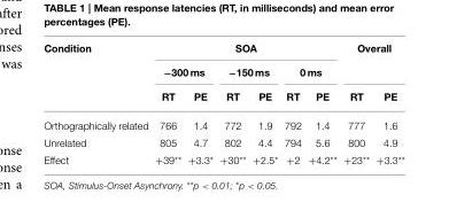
<table><thead><tr><td rowspan="3">Condition</td><td colspan="6">SOA</td><td colspan="2">Overall</td></tr><tr><td colspan="2">−300 ms</td><td colspan="2">−150 ms</td><td colspan="2">0 ms</td><td rowspan="2">RT</td><td rowspan="2">PE</td></tr><tr><td>RT</td><td>PE</td><td>RT</td><td>PE</td><td>RT</td><td>PE</td></tr></thead><tbody><tr><td>Orthographically related</td><td>766</td><td>1.4</td><td>772</td><td>1.9</td><td>792</td><td>1.4</td><td>777</td><td>1.6</td></tr><tr><td>Unrelated</td><td>805</td><td>4.7</td><td>802</td><td>4.4</td><td>794</td><td>5.6</td><td>800</td><td>4.9</td></tr><tr><td>Effect</td><td>+39**</td><td>+3.3*</td><td>+30**</td><td>+2.5*</td><td>+2</td><td>+4.2**</td><td>+23**</td><td>+3.3**</td></tr></tbody></table>